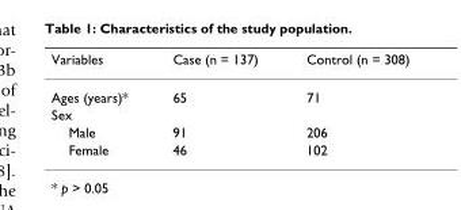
<table><thead><tr><td>Variables</td><td>Case (n = 137)</td><td>Control (n = 308)</td></tr></thead><tbody><tr><td>Ages (years)*</td><td>65</td><td>71</td></tr><tr><td colspan="3">Sex</td></tr><tr><td>Male</td><td>91</td><td>206</td></tr><tr><td>Female</td><td>46</td><td>102</td></tr></tbody></table>